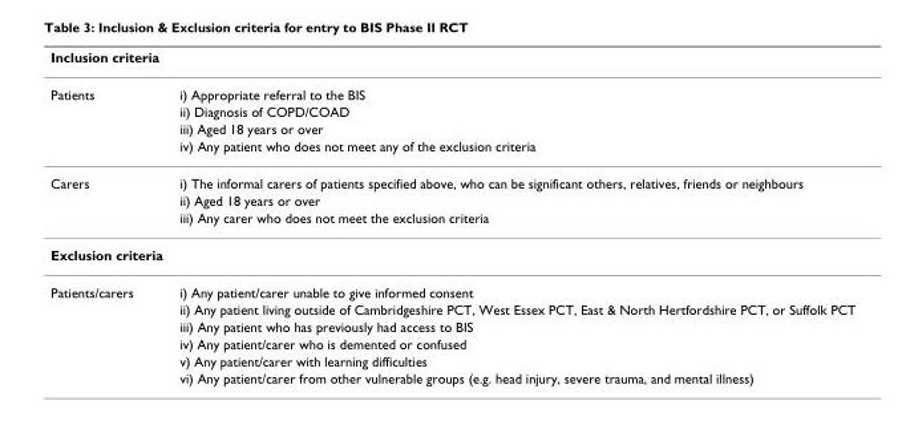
<table><thead><tr><td>Inclusion criteria</td><td></td></tr></thead><tbody><tr><td rowspan="4">Patients</td><td>i) Appropriate referral to the BIS</td></tr><tr><td>ii) Diagnosis of COPD/COAD</td></tr><tr><td>iii) Aged 18 years or over</td></tr><tr><td>iv) Any patient who does not meet any of the exclusion criteria</td></tr><tr><td rowspan="3">Carers</td><td>i) The informal carers of patients specified above, who can be significant others, relatives, friends or neighbours</td></tr><tr><td>ii) Aged 18 years or over</td></tr><tr><td>iii) Any carer who does not meet the exclusion criteria</td></tr><tr><td colspan="2">Exclusion criteria</td></tr><tr><td rowspan="6">Patients/carers</td><td>i) Any patient/carer unable to give informed consent</td></tr><tr><td>ii) Any patient living outside of Cambridgeshire PCT, West Essex PCT, East &amp; North Hertfordshire PCT, or Suffolk PCT</td></tr><tr><td>iii) Any patient who has previously had access to BIS</td></tr><tr><td>iv) Any patient/carer who is demented or confused</td></tr><tr><td>v) Any patient/carer with learning difficulties</td></tr><tr><td>vi) Any patient/carer from other vulnerable groups (e.g. head injury, severe trauma, and mental illness)</td></tr></tbody></table>